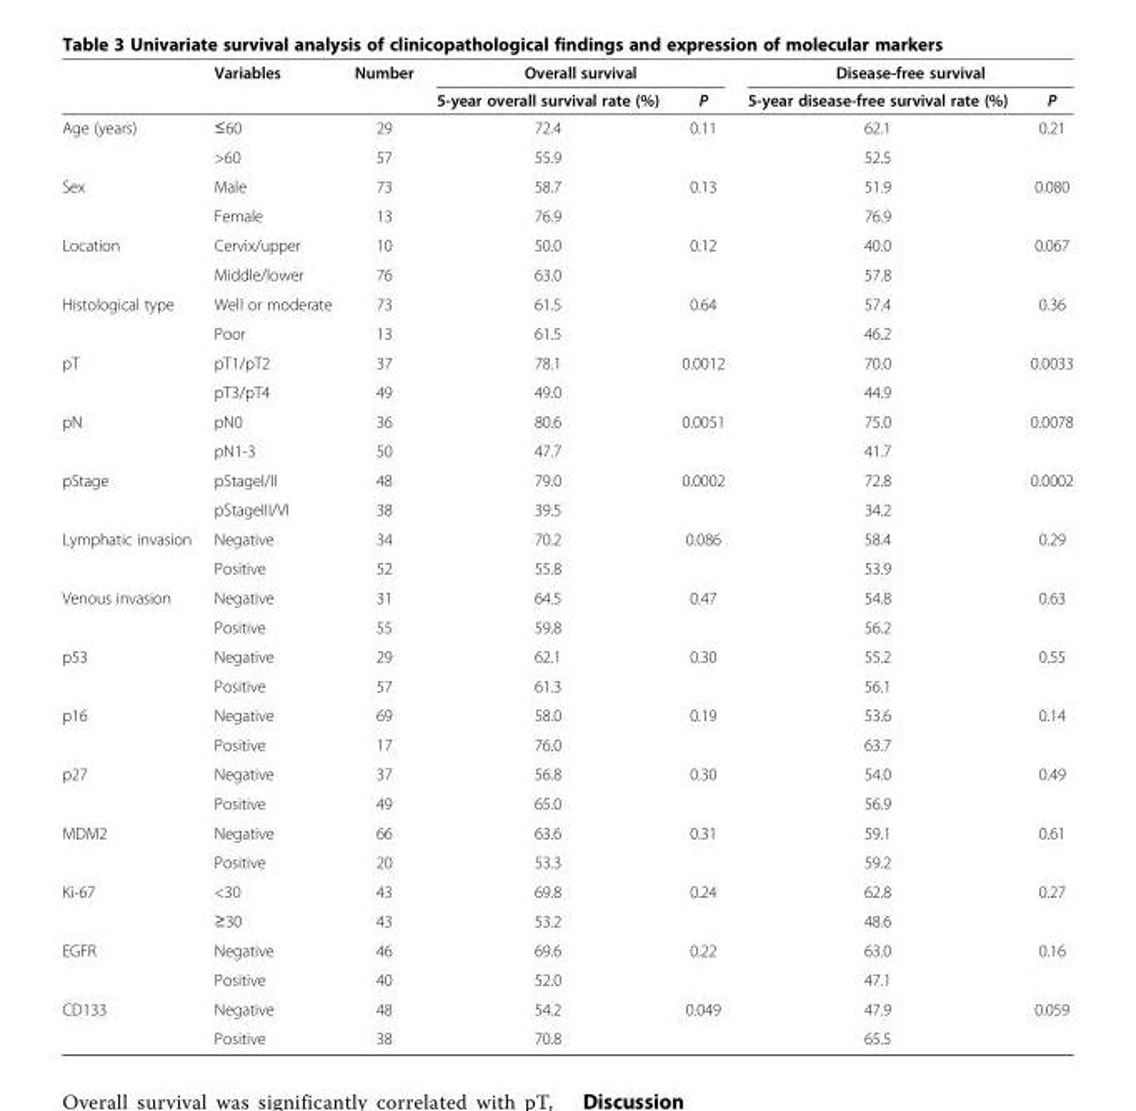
<table><thead><tr><td rowspan="2"></td><td rowspan="2">Variables</td><td rowspan="2">Number</td><td colspan="2">Overall survival</td><td colspan="2">Disease-free survival</td></tr><tr><td>5-year overall survival rate (%)</td><td>P</td><td>5-year disease-free survival rate (%)</td><td>P</td></tr></thead><tbody><tr><td rowspan="2">Age (years)</td><td>≤60</td><td>29</td><td>72.4</td><td rowspan="2">0.11</td><td>62.1</td><td rowspan="2">0.21</td></tr><tr><td>&gt;60</td><td>57</td><td>55.9</td><td>52.5</td></tr><tr><td rowspan="2">Sex</td><td>Male</td><td>73</td><td>58.7</td><td rowspan="2">0.13</td><td>51.9</td><td rowspan="2">0.080</td></tr><tr><td>Female</td><td>13</td><td>76.9</td><td>76.9</td></tr><tr><td rowspan="2">Location</td><td>Cervix/upper</td><td>10</td><td>50.0</td><td rowspan="2">0.12</td><td>40.0</td><td rowspan="2">0.067</td></tr><tr><td>Middle/lower</td><td>76</td><td>63.0</td><td>57.8</td></tr><tr><td rowspan="2">Histological type</td><td>Well or moderate</td><td>73</td><td>61.5</td><td rowspan="2">0.64</td><td>57.4</td><td rowspan="2">0.36</td></tr><tr><td>Poor</td><td>13</td><td>61.5</td><td>46.2</td></tr><tr><td rowspan="2">pT</td><td>pT1/pT2</td><td>37</td><td>78.1</td><td rowspan="2">0.0012</td><td>70.0</td><td rowspan="2">0.0033</td></tr><tr><td>pT3/pT4</td><td>49</td><td>49.0</td><td>44.9</td></tr><tr><td rowspan="2">pN</td><td>pN0</td><td>36</td><td>80.6</td><td rowspan="2">0.0051</td><td>75.0</td><td rowspan="2">0.0078</td></tr><tr><td>pN1-3</td><td>50</td><td>47.7</td><td>41.7</td></tr><tr><td rowspan="2">pStage</td><td>pStageI/II</td><td>48</td><td>79.0</td><td rowspan="2">0.0002</td><td>72.8</td><td rowspan="2">0.0002</td></tr><tr><td>pStageIII/VI</td><td>38</td><td>39.5</td><td>34.2</td></tr><tr><td rowspan="2">Lymphatic invasion</td><td>Negative</td><td>34</td><td>70.2</td><td rowspan="2">0.086</td><td>58.4</td><td rowspan="2">0.29</td></tr><tr><td>Positive</td><td>52</td><td>55.8</td><td>53.9</td></tr><tr><td rowspan="2">Venous invasion</td><td>Negative</td><td>31</td><td>64.5</td><td rowspan="2">0.47</td><td>54.8</td><td rowspan="2">0.63</td></tr><tr><td>Positive</td><td>55</td><td>59.8</td><td>56.2</td></tr><tr><td rowspan="2">p53</td><td>Negative</td><td>29</td><td>62.1</td><td rowspan="2">0.30</td><td>55.2</td><td rowspan="2">0.55</td></tr><tr><td>Positive</td><td>57</td><td>61.3</td><td>56.1</td></tr><tr><td rowspan="2">p16</td><td>Negative</td><td>69</td><td>58.0</td><td rowspan="2">0.19</td><td>53.6</td><td rowspan="2">0.14</td></tr><tr><td>Positive</td><td>17</td><td>76.0</td><td>63.7</td></tr><tr><td rowspan="2">p27</td><td>Negative</td><td>37</td><td>56.8</td><td rowspan="2">0.30</td><td>54.0</td><td rowspan="2">0.49</td></tr><tr><td>Positive</td><td>49</td><td>65.0</td><td>56.9</td></tr><tr><td rowspan="2">MDM2</td><td>Negative</td><td>66</td><td>63.6</td><td rowspan="2">0.31</td><td>59.1</td><td rowspan="2">0.61</td></tr><tr><td>Positive</td><td>20</td><td>53.3</td><td>59.2</td></tr><tr><td rowspan="2">Ki-67</td><td>&lt;30</td><td>43</td><td>69.8</td><td rowspan="2">0.24</td><td>62.8</td><td rowspan="2">0.27</td></tr><tr><td>≥30</td><td>43</td><td>53.2</td><td>48.6</td></tr><tr><td rowspan="2">EGFR</td><td>Negative</td><td>46</td><td>69.6</td><td rowspan="2">0.22</td><td>63.0</td><td rowspan="2">0.16</td></tr><tr><td>Positive</td><td>40</td><td>52.0</td><td>47.1</td></tr><tr><td rowspan="2">CD133</td><td>Negative</td><td>48</td><td>54.2</td><td>0.049</td><td>47.9</td><td>0.059</td></tr><tr><td>Positive</td><td>38</td><td>70.8</td><td></td><td>65.5</td><td></td></tr></tbody></table>